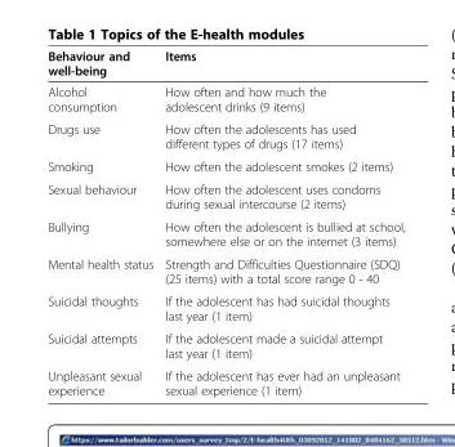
<table><thead><tr><td>Behaviour and well-being</td><td>Items</td></tr></thead><tbody><tr><td>Alcohol consumption</td><td>How often and how much the adolescent drinks (9 items)</td></tr><tr><td>Drugs use</td><td>How often the adolescents has used different types of drugs (17 items)</td></tr><tr><td>Smoking</td><td>How often the adolescent smokes (2 items)</td></tr><tr><td>Sexual behaviour</td><td>How often the adolescent uses condoms during sexual intercourse (2 items)</td></tr><tr><td>Bullying</td><td>How often the adolescent is bullied at school, somewhere else or on the internet (3 items)</td></tr><tr><td>Mental health status</td><td>Strength and Difficulties Questionnaire (SDQ) (25 items) with a total score range 0 - 40</td></tr><tr><td>Suicidal thoughts</td><td>If the adolescent has had suicidal thoughts last year (1 item)</td></tr><tr><td>Suicidal attempts</td><td>If the adolescent made a suicidal attempt last year (1 item)</td></tr><tr><td>Unpleasant sexual experience</td><td>If the adolescent has ever had an unpleasant sexual experience (1 item)</td></tr></tbody></table>